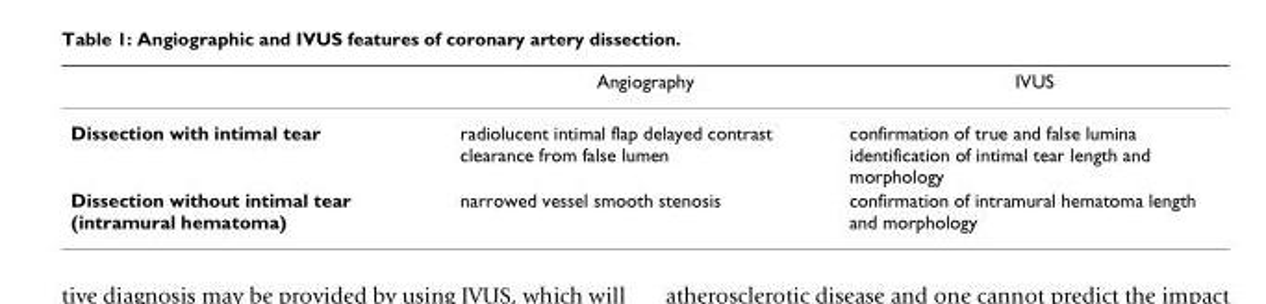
<table><thead><tr><td></td><td>Angiography</td><td>IVUS</td></tr></thead><tbody><tr><td>Dissection with intimal tear</td><td>radiolucent intimal flap delayed contrast clearance from false lumen</td><td>confirmation of true and false lumina identification of intimal tear length and morphology</td></tr><tr><td>Dissection without intimal tear (intramural hematoma)</td><td>narrowed vessel smooth stenosis</td><td>confirmation of intramural hematoma length and morphology</td></tr></tbody></table>